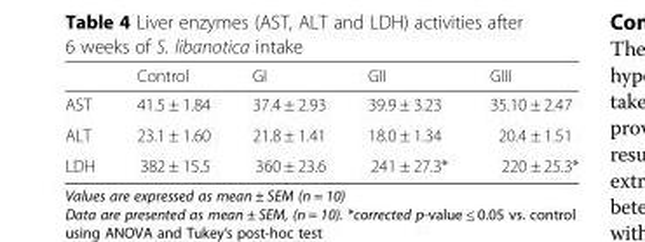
<table><thead><tr><td></td><td>Control</td><td>GI</td><td>GII</td><td>GIII</td></tr></thead><tbody><tr><td>AST</td><td>41.5 ± 1.84</td><td>37.4 ± 2.93</td><td>39.9 ± 3.23</td><td>35.10 ± 2.47</td></tr><tr><td>ALT</td><td>23.1 ± 1.60</td><td>21.8 ± 1.41</td><td>18.0 ± 1.34</td><td>20.4 ± 1.51</td></tr><tr><td>LDH</td><td>382 ± 15.5</td><td>360 ± 23.6</td><td>241 ± 27.3*</td><td>220 ± 25.3*</td></tr></tbody></table>